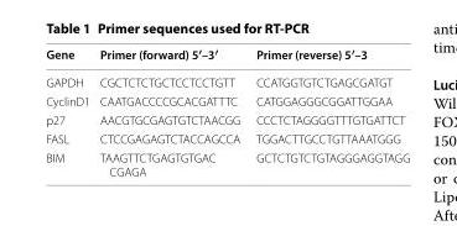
<table><thead><tr><td>Gene</td><td>Primer (forward) 5′–3′</td><td>Primer (reverse) 5′–3</td></tr></thead><tbody><tr><td>GAPDH</td><td>CGCTCTCTGCTCCTCCTGTT</td><td>CCATGGTGTCTGAGCGATGT</td></tr><tr><td>CyclinD1</td><td>CAATGACCCCGCACGATTTC</td><td>CATGGAGGGCGGATTGGAA</td></tr><tr><td>p27</td><td>AACGTGCGAGTGTCTAACGG</td><td>CCCTCTAGGGGTTTGTGATTCT</td></tr><tr><td>FASL</td><td>CTCCGAGAGTCTACCAGCCA</td><td>TGGACTTGCCTGTTAAATGGG</td></tr><tr><td>BIM</td><td>TAAGTTCTGAGTGTGAC CGAGA</td><td>GCTCTGTCTGTAGGGAGGTAGG</td></tr></tbody></table>